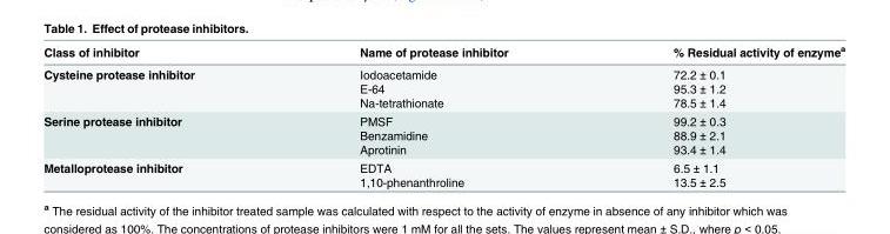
<table><thead><tr><td>Class of inhibitor</td><td>Name of protease inhibitor</td><td>% Residual activity of enzyme<sup>a</sup></td></tr></thead><tbody><tr><td>Cysteine protease inhibitor</td><td>Iodoacetamide E-64 Na-tetrathionate</td><td>72.2 ± 0.1 95.3 ± 1.2 78.5 ± 1.4</td></tr><tr><td>Serine protease inhibitor</td><td>PMSF Benzamidine Aprotinin</td><td>99.2 ± 0.3 88.9 ± 2.1 93.4 ± 1.4</td></tr><tr><td>Metalloprotease inhibitor</td><td>EDTA 1,10-phenanthroline</td><td>6.5 ± 1.1 13.5 ± 2.5</td></tr></tbody></table>